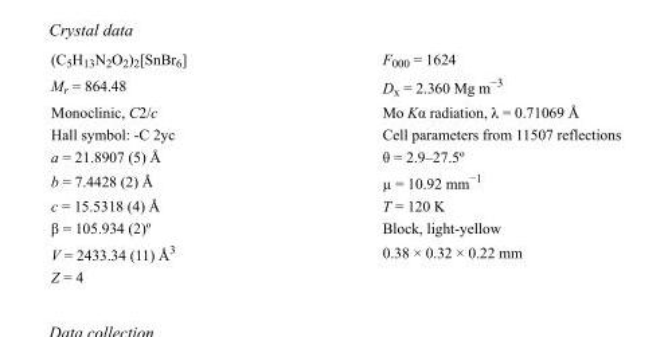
<table><tbody><tr><td>(C<sub>5</sub>H<sub>13</sub>N<sub>2</sub>O<sub>2</sub>)<sub>2</sub>[SnBr<sub>6</sub>]</td><td>F000 = 1624</td></tr><tr><td>M<sub>r</sub> = 864.48</td><td>D<sub>x</sub> = 2.360 Mg m<sup>−3</sup></td></tr><tr><td>Monoclinic, C2/c</td><td>Mo Kα radiation, λ = 0.71069 Å</td></tr><tr><td>Hall symbol: -C 2yc</td><td>Cell parameters from 11507 reflections</td></tr><tr><td>a = 21.8907 (5) Å</td><td>θ = 2.9–27.5º</td></tr><tr><td>b = 7.4428 (2) Å</td><td>µ = 10.92 mm<sup>−1</sup></td></tr><tr><td>c = 15.5318 (4) Å</td><td>T = 120 K</td></tr><tr><td>β = 105.934 (2)º</td><td>Block, light-yellow</td></tr><tr><td>V = 2433.34 (11) Å<sup>3</sup></td><td>0.38 × 0.32 × 0.22 mm</td></tr><tr><td>Z = 4</td><td></td></tr></tbody></table>